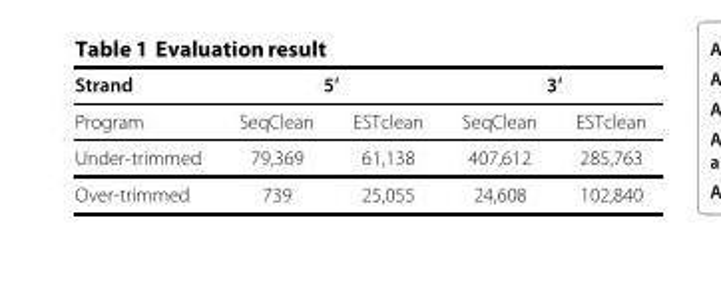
<table><thead><tr><td rowspan="2">Strand Program</td><td colspan="2">5’</td><td colspan="2">3’</td></tr><tr><td>SeqClean</td><td>ESTclean</td><td>SeqClean</td><td>ESTclean</td></tr></thead><tbody><tr><td>Under-trimmed</td><td>79,369</td><td>61,138</td><td>407,612</td><td>285,763</td></tr><tr><td>Over-trimmed</td><td>739</td><td>25,055</td><td>24,608</td><td>102,840</td></tr></tbody></table>